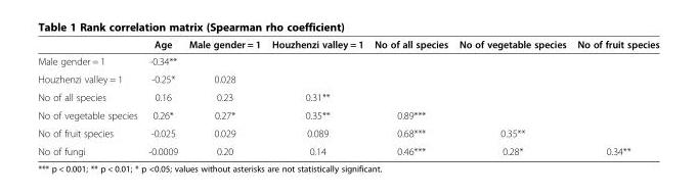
<table><thead><tr><td></td><td>Age</td><td>Male gender = 1</td><td>Houzhenzi valley = 1</td><td>No of all species</td><td>No of vegetable species</td><td>No of fruit species</td></tr></thead><tbody><tr><td>Male gender = 1</td><td>-0.34**</td><td></td><td></td><td></td><td></td><td></td></tr><tr><td>Houzhenzi valley = 1</td><td>-0.25*</td><td>0.028</td><td></td><td></td><td></td><td></td></tr><tr><td>No of all species</td><td>0.16</td><td>0.23</td><td>0.31**</td><td></td><td></td><td></td></tr><tr><td>No of vegetable species</td><td>0.26*</td><td>0.27*</td><td>0.35**</td><td>0.89***</td><td></td><td></td></tr><tr><td>No of fruit species</td><td>-0.025</td><td>0.029</td><td>0.089</td><td>0.68***</td><td>0.35**</td><td></td></tr><tr><td>No of fungi</td><td>-0.0009</td><td>0.20</td><td>0.14</td><td>0.46***</td><td>0.28*</td><td>0.34**</td></tr></tbody></table>